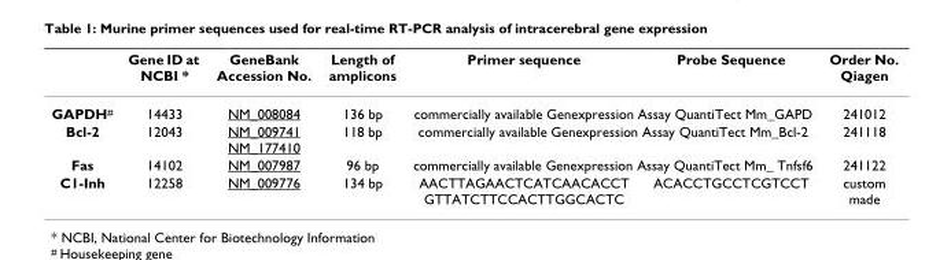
<table><thead><tr><td></td><td>Gene ID at NCBI *</td><td>GeneBank Accession No.</td><td>Length of amplicons</td><td>Primer sequence</td><td>Probe Sequence</td><td>Order No. Qiagen</td></tr></thead><tbody><tr><td>GAPDH<sup>#</sup></td><td>14433</td><td>NM_008084</td><td>136 bp</td><td colspan="2">commercially available Genexpression Assay QuantiTect Mm_GAPD</td><td>241012</td></tr><tr><td>Bcl-2</td><td>12043</td><td>NM_009741 NM_177410</td><td>118 bp</td><td colspan="2">commercially available Genexpression Assay QuantiTect Mm_Bcl-2</td><td>241118</td></tr><tr><td>Fas</td><td>14102</td><td>NM_007987</td><td>96 bp</td><td colspan="2">commercially available Genexpression Assay QuantiTect Mm_ Tnfsf6</td><td>241122</td></tr><tr><td>C1-Inh</td><td>12258</td><td>NM_009776</td><td>134 bp</td><td>AACTTAGAACTCATCAACACCT GTTATCTTCCACTTGGCACTC</td><td>ACACCTGCCTCGTCCT</td><td>custom made</td></tr></tbody></table>